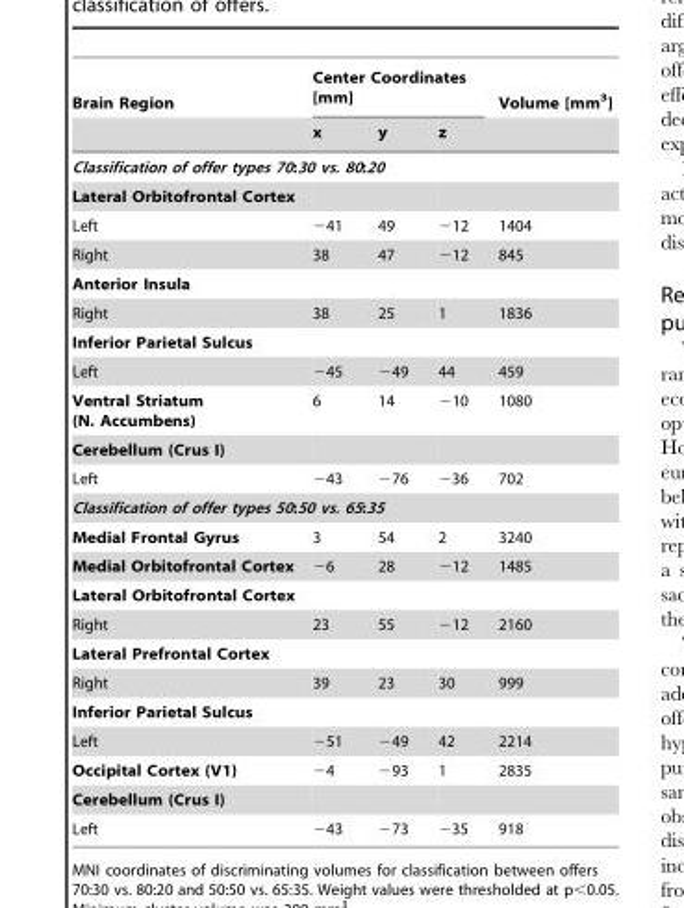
<table><thead><tr><td rowspan="2">Brain Region</td><td colspan="3">Center Coordinates [mm]</td><td rowspan="2">Volume [mm<sup>3</sup>]</td></tr><tr><td>x</td><td>y</td><td>z</td></tr></thead><tbody><tr><td colspan="5">Classification of offer types 70:30 vs. 80:20</td></tr><tr><td colspan="5">Lateral Orbitofrontal Cortex</td></tr><tr><td>Left</td><td>−41</td><td>49</td><td>−12</td><td>1404</td></tr><tr><td>Right</td><td>38</td><td>47</td><td>−12</td><td>845</td></tr><tr><td colspan="5">Anterior Insula</td></tr><tr><td>Right</td><td>38</td><td>25</td><td>1</td><td>1836</td></tr><tr><td colspan="5">Inferior Parietal Sulcus</td></tr><tr><td>Left</td><td>−45</td><td>−49</td><td>44</td><td>459</td></tr><tr><td>Ventral Striatum (N. Accumbens)</td><td>6</td><td>14</td><td>−10</td><td>1080</td></tr><tr><td colspan="5">Cerebellum (Crus I)</td></tr><tr><td>Left</td><td>−43</td><td>−76</td><td>−36</td><td>702</td></tr><tr><td colspan="5">Classification of offer types 50:50 vs. 65:35</td></tr><tr><td>Medial Frontal Gyrus</td><td>3</td><td>54</td><td>2</td><td>3240</td></tr><tr><td>Medial Orbitofrontal Cortex</td><td>−6</td><td>28</td><td>−12</td><td>1485</td></tr><tr><td colspan="5">Lateral Orbitofrontal Cortex</td></tr><tr><td>Right</td><td>23</td><td>55</td><td>−12</td><td>2160</td></tr><tr><td colspan="5">Lateral Prefrontal Cortex</td></tr><tr><td>Right</td><td>39</td><td>23</td><td>30</td><td>999</td></tr><tr><td colspan="5">Inferior Parietal Sulcus</td></tr><tr><td>Left</td><td>−51</td><td>−49</td><td>42</td><td>2214</td></tr><tr><td>Occipital Cortex (V1)</td><td>−4</td><td>−93</td><td>1</td><td>2835</td></tr><tr><td colspan="5">Cerebellum (Crus I)</td></tr><tr><td>Left</td><td>−43</td><td>−73</td><td>−35</td><td>918</td></tr></tbody></table>